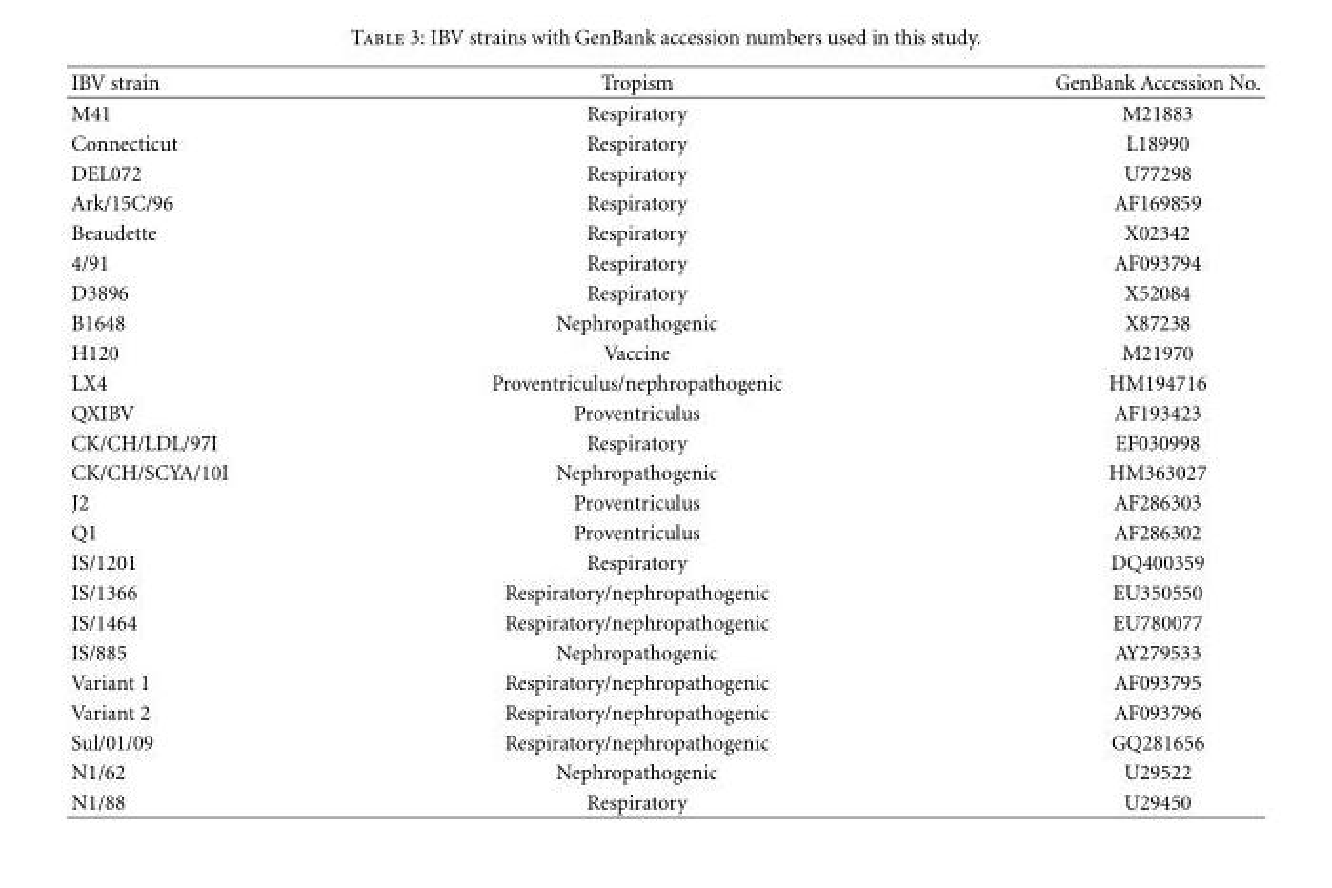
<table><thead><tr><td>IBV strain</td><td>Tropism</td><td>GenBank Accession No.</td></tr></thead><tbody><tr><td>M41</td><td>Respiratory</td><td>M21883</td></tr><tr><td>Connecticut</td><td>Respiratory</td><td>L18990</td></tr><tr><td>DEL072</td><td>Respiratory</td><td>U77298</td></tr><tr><td>Ark/15C/96</td><td>Respiratory</td><td>AF169859</td></tr><tr><td>Beaudette</td><td>Respiratory</td><td>X02342</td></tr><tr><td>4/91</td><td>Respiratory</td><td>AF093794</td></tr><tr><td>D3896</td><td>Respiratory</td><td>X52084</td></tr><tr><td>B1648</td><td>Nephropathogenic</td><td>X87238</td></tr><tr><td>H120</td><td>Vaccine</td><td>M21970</td></tr><tr><td>LX4</td><td>Proventriculus/nephropathogenic</td><td>HM194716</td></tr><tr><td>QXIBV</td><td>Proventriculus</td><td>AF193423</td></tr><tr><td>CK/CH/LDL/97I</td><td>Respiratory</td><td>EF030998</td></tr><tr><td>CK/CH/SCYA/10I</td><td>Nephropathogenic</td><td>HM363027</td></tr><tr><td>J2</td><td>Proventriculus</td><td>AF286303</td></tr><tr><td>Q1</td><td>Proventriculus</td><td>AF286302</td></tr><tr><td>IS/1201</td><td>Respiratory</td><td>DQ400359</td></tr><tr><td>IS/1366</td><td>Respiratory/nephropathogenic</td><td>EU350550</td></tr><tr><td>IS/1464</td><td>Respiratory/nephropathogenic</td><td>EU780077</td></tr><tr><td>IS/885</td><td>Nephropathogenic</td><td>AY279533</td></tr><tr><td>Variant 1</td><td>Respiratory/nephropathogenic</td><td>AF093795</td></tr><tr><td>Variant 2</td><td>Respiratory/nephropathogenic</td><td>AF093796</td></tr><tr><td>Sul/01/09</td><td>Respiratory/nephropathogenic</td><td>GQ281656</td></tr><tr><td>N1/62</td><td>Nephropathogenic</td><td>U29522</td></tr><tr><td>N1/88</td><td>Respiratory</td><td>U29450</td></tr></tbody></table>